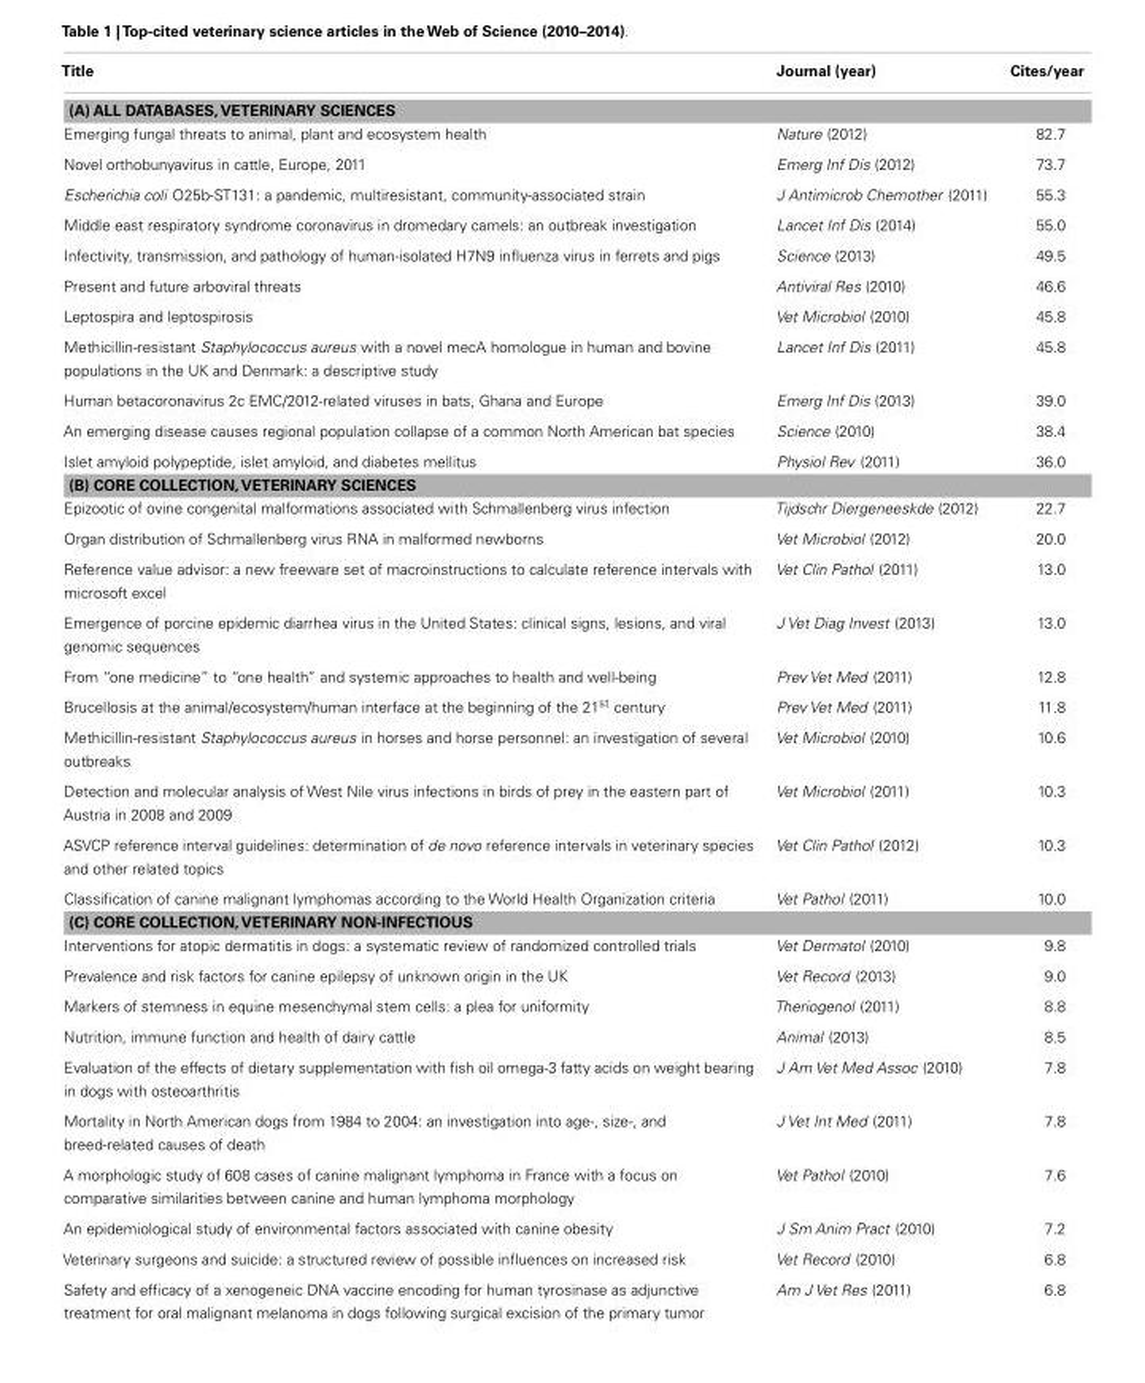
<table><thead><tr><td>Title</td><td>Journal (year)</td><td>Cites/year</td></tr></thead><tbody><tr><td colspan="3">(A) ALL DATABASES,VETERINARY SCIENCES</td></tr><tr><td>Emerging fungal threats to animal, plant and ecosystem health</td><td>Nature (2012)</td><td>82.7</td></tr><tr><td>Novel orthobunyavirus in cattle, Europe, 2011</td><td>Emerg Inf Dis (2012)</td><td>73.7</td></tr><tr><td>Escherichia coli O25b-ST131: a pandemic, multiresistant, community-associated strain</td><td>J Antimicrob Chemother (2011)</td><td>55.3</td></tr><tr><td>Middle east respiratory syndrome coronavirus in dromedary camels: an outbreak investigation</td><td>Lancet Inf Dis (2014)</td><td>55.0</td></tr><tr><td>Infectivity, transmission, and pathology of human-isolated H7N9 influenza virus in ferrets and pigs</td><td>Science (2013)</td><td>49.5</td></tr><tr><td>Present and future arboviral threats</td><td>Antiviral Res (2010)</td><td>46.6</td></tr><tr><td>Leptospira and leptospirosis</td><td>Vet Microbiol (2010)</td><td>45.8</td></tr><tr><td>Methicillin-resistant Staphylococcus aureus with a novel mecA homologue in human and bovine populations in the UK and Denmark: a descriptive study</td><td>Lancet Inf Dis (2011)</td><td>45.8</td></tr><tr><td>Human betacoronavirus 2c EMC/2012-related viruses in bats, Ghana and Europe</td><td>Emerg Inf Dis (2013)</td><td>39.0</td></tr><tr><td>An emerging disease causes regional population collapse of a common North American bat species</td><td>Science (2010)</td><td>38.4</td></tr><tr><td>Islet amyloid polypeptide, islet amyloid, and diabetes mellitus</td><td>Physiol Rev (2011)</td><td>36.0</td></tr><tr><td colspan="3">(B) CORE COLLECTION,VETERINARY SCIENCES</td></tr><tr><td>Epizootic of ovine congenital malformations associated with Schmallenberg virus infection</td><td>Tijdschr Diergeneeskde (2012)</td><td>22.7</td></tr><tr><td>Organ distribution of Schmallenberg virus RNA in malformed newborns</td><td>Vet Microbiol (2012)</td><td>20.0</td></tr><tr><td>Reference value advisor: a new freeware set of macroinstructions to calculate reference intervals with microsoft excel</td><td>Vet Clin Pathol (2011)</td><td>13.0</td></tr><tr><td>Emergence of porcine epidemic diarrhea virus in the United States: clinical signs, lesions, and viral genomic sequences</td><td>J Vet Diag Invest (2013)</td><td>13.0</td></tr><tr><td>From “one medicine” to “one health” and systemic approaches to health and well-being</td><td>Prev Vet Med (2011)</td><td>12.8</td></tr><tr><td>Brucellosis at the animal/ecosystem/human interface at the beginning of the 21<sup>st</sup> century</td><td>Prev Vet Med (2011)</td><td>11.8</td></tr><tr><td>Methicillin-resistant Staphylococcus aureus in horses and horse personnel: an investigation of several outbreaks</td><td>Vet Microbiol (2010)</td><td>10.6</td></tr><tr><td>Detection and molecular analysis of West Nile virus infections in birds of prey in the eastern part of Austria in 2008 and 2009</td><td>Vet Microbiol (2011)</td><td>10.3</td></tr><tr><td>ASVCP reference interval guidelines: determination of de novo reference intervals in veterinary species and other related topics</td><td>Vet Clin Pathol (2012)</td><td>10.3</td></tr><tr><td>Classification of canine malignant lymphomas according to the World Health Organization criteria</td><td>Vet Pathol (2011)</td><td>10.0</td></tr><tr><td colspan="3">(C) CORE COLLECTION,VETERINARY NON-INFECTIOUS</td></tr><tr><td>Interventions for atopic dermatitis in dogs: a systematic review of randomized controlled trials</td><td>Vet Dermatol (2010)</td><td>9.8</td></tr><tr><td>Prevalence and risk factors for canine epilepsy of unknown origin in the UK</td><td>Vet Record (2013)</td><td>9.0</td></tr><tr><td>Markers of stemness in equine mesenchymal stem cells: a plea for uniformity</td><td>Theriogenol (2011)</td><td>8.8</td></tr><tr><td>Nutrition, immune function and health of dairy cattle</td><td>Animal (2013)</td><td>8.5</td></tr><tr><td>Evaluation of the effects of dietary supplementation with fish oil omega-3 fatty acids on weight bearing in dogs with osteoarthritis</td><td>J Am Vet Med Assoc (2010)</td><td>7.8</td></tr><tr><td>Mortality in North American dogs from 1984 to 2004: an investigation into age-, size-, and breed-related causes of death</td><td>J Vet Int Med (2011)</td><td>7.8</td></tr><tr><td>A morphologic study of 608 cases of canine malignant lymphoma in France with a focus on comparative similarities between canine and human lymphoma morphology</td><td>Vet Pathol (2010)</td><td>7.6</td></tr><tr><td>An epidemiological study of environmental factors associated with canine obesity</td><td>J Sm Anim Pract (2010)</td><td>7.2</td></tr><tr><td>Veterinary surgeons and suicide: a structured review of possible influences on increased risk</td><td>Vet Record (2010)</td><td>6.8</td></tr><tr><td>Safety and efficacy of a xenogeneic DNA vaccine encoding for human tyrosinase as adjunctive treatment for oral malignant melanoma in dogs following surgical excision of the primary tumor</td><td>Am J Vet Res (2011)</td><td>6.8</td></tr></tbody></table>